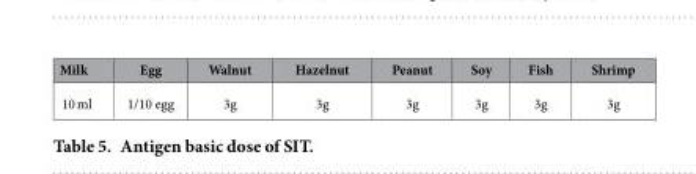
<table><thead><tr><td>Milk</td><td>Egg</td><td>Walnut</td><td>Hazelnut</td><td>Peanut</td><td>Soy</td><td>Fish</td><td>Shrimp</td></tr></thead><tbody><tr><td>10 ml</td><td>1/10 egg</td><td>3g</td><td>3g</td><td>3g</td><td>3g</td><td>3g</td><td>3g</td></tr></tbody></table>